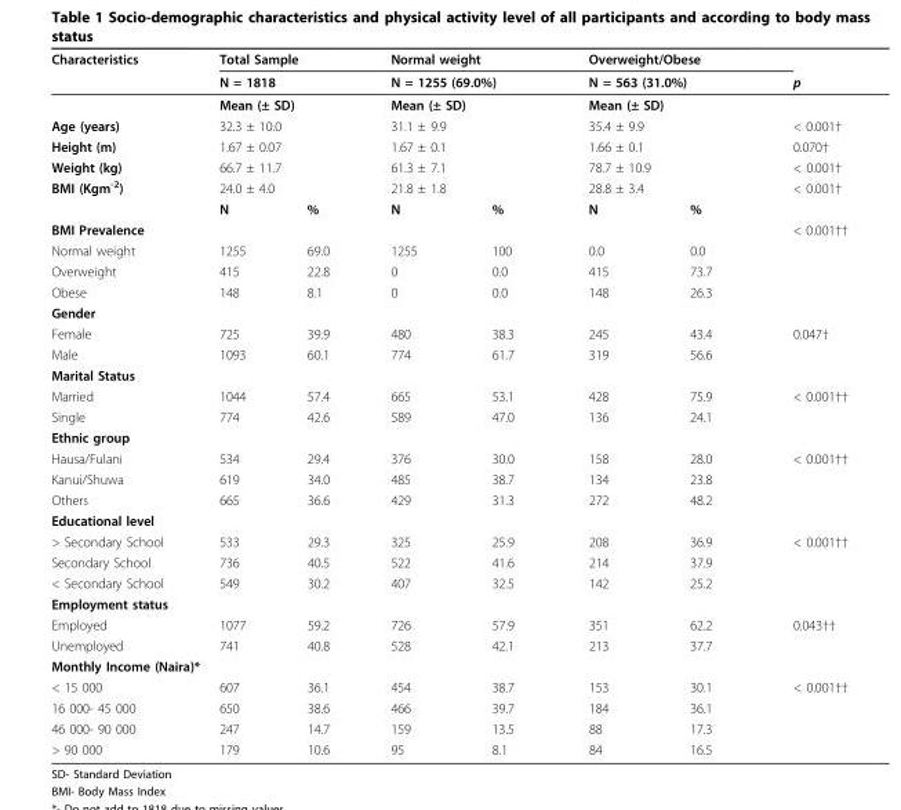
<table><thead><tr><td rowspan="2">Characteristics</td><td rowspan="2" colspan="2">Total Sample N = 1818</td><td rowspan="2" colspan="2">Normal weight N = 1255 (69.0%)</td><td rowspan="2" colspan="2">Overweight/Obese N = 563 (31.0%)</td><td rowspan="2">p</td></tr><tr></tr></thead><tbody><tr><td></td><td colspan="2">Mean (± SD)</td><td colspan="2">Mean (± SD)</td><td colspan="2">Mean (± SD)</td><td></td></tr><tr><td>Age (years)</td><td colspan="2">32.3 ± 10.0</td><td colspan="2">31.1 ± 9.9</td><td colspan="2">35.4 ± 9.9</td><td>&lt; 0.001†</td></tr><tr><td>Height (m)</td><td colspan="2">1.67 ± 0.07</td><td colspan="2">1.67 ± 0.1</td><td colspan="2">1.66 ± 0.1</td><td>0.070†</td></tr><tr><td>Weight (kg)</td><td colspan="2">66.7 ± 11.7</td><td colspan="2">61.3 ± 7.1</td><td colspan="2">78.7 ± 10.9</td><td>&lt; 0.001†</td></tr><tr><td rowspan="2">BMI (Kgm<sup>-2</sup>)</td><td colspan="2">24.0 ± 4.0</td><td colspan="2">21.8 ± 1.8</td><td colspan="2">28.8 ± 3.4</td><td>&lt; 0.001†</td></tr><tr><td>N</td><td>%</td><td>N</td><td>%</td><td>N</td><td>%</td><td></td></tr><tr><td>BMI Prevalence</td><td></td><td></td><td></td><td></td><td></td><td></td><td>&lt; 0.001††</td></tr><tr><td>Normal weight</td><td>1255</td><td>69.0</td><td>1255</td><td>100</td><td>0.0</td><td>0.0</td><td></td></tr><tr><td>Overweight</td><td>415</td><td>22.8</td><td>0</td><td>0.0</td><td>415</td><td>73.7</td><td></td></tr><tr><td>Obese</td><td>148</td><td>8.1</td><td>0</td><td>0.0</td><td>148</td><td>26.3</td><td></td></tr><tr><td colspan="8">Gender</td></tr><tr><td>Female</td><td>725</td><td>39.9</td><td>480</td><td>38.3</td><td>245</td><td>43.4</td><td>0.047†</td></tr><tr><td>Male</td><td>1093</td><td>60.1</td><td>774</td><td>61.7</td><td>319</td><td>56.6</td><td></td></tr><tr><td colspan="8">Marital Status</td></tr><tr><td>Married</td><td>1044</td><td>57.4</td><td>665</td><td>53.1</td><td>428</td><td>75.9</td><td>&lt; 0.001††</td></tr><tr><td>Single</td><td>774</td><td>42.6</td><td>589</td><td>47.0</td><td>136</td><td>24.1</td><td></td></tr><tr><td colspan="8">Ethnic group</td></tr><tr><td>Hausa/Fulani</td><td>534</td><td>29.4</td><td>376</td><td>30.0</td><td>158</td><td>28.0</td><td>&lt; 0.001††</td></tr><tr><td>Kanui/Shuwa</td><td>619</td><td>34.0</td><td>485</td><td>38.7</td><td>134</td><td>23.8</td><td></td></tr><tr><td>Others</td><td>665</td><td>36.6</td><td>429</td><td>31.3</td><td>272</td><td>48.2</td><td></td></tr><tr><td colspan="8">Educational level</td></tr><tr><td>&gt; Secondary School</td><td>533</td><td>29.3</td><td>325</td><td>25.9</td><td>208</td><td>36.9</td><td>&lt; 0.001††</td></tr><tr><td>Secondary School</td><td>736</td><td>40.5</td><td>522</td><td>41.6</td><td>214</td><td>37.9</td><td></td></tr><tr><td>&lt; Secondary School</td><td>549</td><td>30.2</td><td>407</td><td>32.5</td><td>142</td><td>25.2</td><td></td></tr><tr><td colspan="8">Employment status</td></tr><tr><td>Employed</td><td>1077</td><td>59.2</td><td>726</td><td>57.9</td><td>351</td><td>62.2</td><td>0.043††</td></tr><tr><td>Unemployed</td><td>741</td><td>40.8</td><td>528</td><td>42.1</td><td>213</td><td>37.7</td><td></td></tr><tr><td colspan="8">Monthly Income (Naira)*</td></tr><tr><td>&lt; 15 000</td><td>607</td><td>36.1</td><td>454</td><td>38.7</td><td>153</td><td>30.1</td><td>&lt; 0.001††</td></tr><tr><td>16 000- 45 000</td><td>650</td><td>38.6</td><td>466</td><td>39.7</td><td>184</td><td>36.1</td><td></td></tr><tr><td>46 000- 90 000</td><td>247</td><td>14.7</td><td>159</td><td>13.5</td><td>88</td><td>17.3</td><td></td></tr><tr><td>&gt; 90 000</td><td>179</td><td>10.6</td><td>95</td><td>8.1</td><td>84</td><td>16.5</td><td></td></tr></tbody></table>